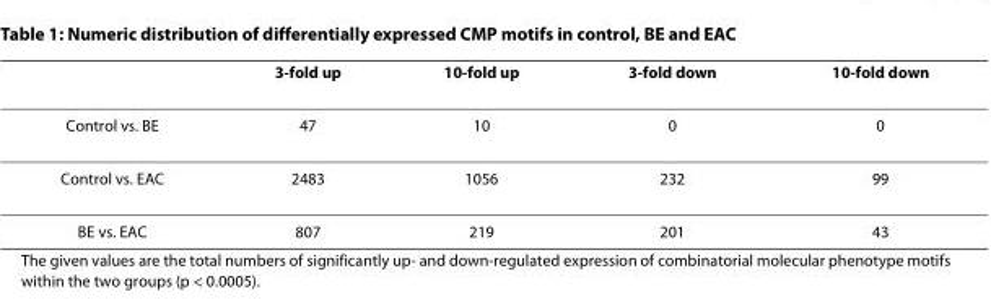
<table><thead><tr><td></td><td>3-fold up</td><td>10-fold up</td><td>3-fold down</td><td>10-fold down</td></tr></thead><tbody><tr><td>Control vs. BE</td><td>47</td><td>10</td><td>0</td><td>0</td></tr><tr><td>Control vs. EAC</td><td>2483</td><td>1056</td><td>232</td><td>99</td></tr><tr><td>BE vs. EAC</td><td>807</td><td>219</td><td>201</td><td>43</td></tr></tbody></table>